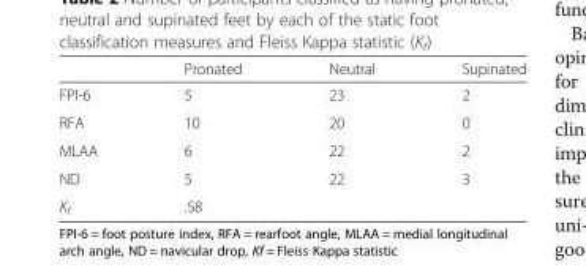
<table><thead><tr><td></td><td>Pronated</td><td>Neutral</td><td>Supinated</td></tr></thead><tbody><tr><td>FPI-6</td><td>5</td><td>23</td><td>2</td></tr><tr><td>RFA</td><td>10</td><td>20</td><td>0</td></tr><tr><td>MLAA</td><td>6</td><td>22</td><td>2</td></tr><tr><td>ND</td><td>5</td><td>22</td><td>3</td></tr><tr><td>K<sub>f</sub></td><td>.58</td><td></td><td></td></tr></tbody></table>